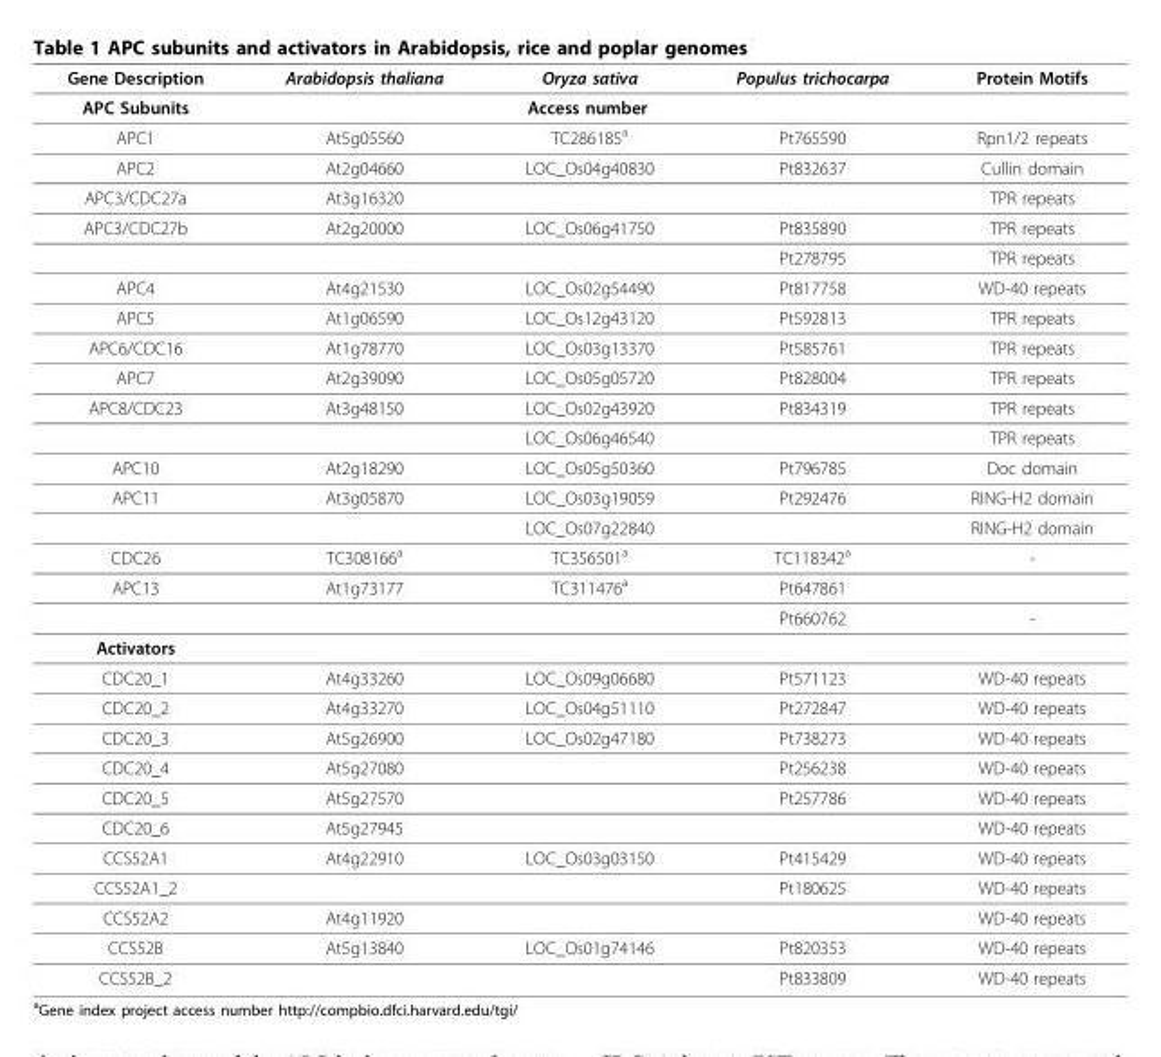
<table><thead><tr><td>Gene Description</td><td>Arabidopsis thaliana</td><td>Oryza sativa</td><td>Populus trichocarpa</td><td>Protein Motifs</td></tr></thead><tbody><tr><td>APC Subunits</td><td colspan="3">Access number</td><td></td></tr><tr><td>APC1</td><td>At5g05560</td><td>TC286185<sup>a</sup></td><td>Pt765590</td><td>Rpn1/2 repeats</td></tr><tr><td>APC2</td><td>At2g04660</td><td>LOC_Os04g40830</td><td>Pt832637</td><td>Cullin domain</td></tr><tr><td>APC3/CDC27a</td><td>At3g16320</td><td></td><td></td><td>TPR repeats</td></tr><tr><td rowspan="2">APC3/CDC27b</td><td>At2g20000</td><td>LOC_Os06g41750</td><td>Pt835890</td><td>TPR repeats</td></tr><tr><td></td><td></td><td>Pt278795</td><td>TPR repeats</td></tr><tr><td>APC4</td><td>At4g21530</td><td>LOC_Os02g54490</td><td>Pt817758</td><td>WD-40 repeats</td></tr><tr><td>APC5</td><td>At1g06590</td><td>LOC_Os12g43120</td><td>Pt592813</td><td>TPR repeats</td></tr><tr><td>APC6/CDC16</td><td>At1g78770</td><td>LOC_Os03g13370</td><td>Pt585761</td><td>TPR repeats</td></tr><tr><td>APC7</td><td>At2g39090</td><td>LOC_Os05g05720</td><td>Pt828004</td><td>TPR repeats</td></tr><tr><td rowspan="2">APC8/CDC23</td><td>At3g48150</td><td>LOC_Os02g43920</td><td>Pt834319</td><td>TPR repeats</td></tr><tr><td></td><td>LOC_Os06g46540</td><td></td><td>TPR repeats</td></tr><tr><td>APC10</td><td>At2g18290</td><td>LOC_Os05g50360</td><td>Pt796785</td><td>Doc domain</td></tr><tr><td rowspan="2">APC11</td><td>At3g05870</td><td>LOC_Os03g19059</td><td>Pt292476</td><td>RING-H2 domain</td></tr><tr><td></td><td>LOC_Os07g22840</td><td></td><td>RING-H2 domain</td></tr><tr><td>CDC26</td><td>TC308166<sup>a</sup></td><td>TC356501<sup>a</sup></td><td>TC118342<sup>a</sup></td><td>-</td></tr><tr><td rowspan="2">APC13</td><td>At1g73177</td><td>TC311476<sup>a</sup></td><td>Pt647861</td><td></td></tr><tr><td></td><td></td><td>Pt660762</td><td>-</td></tr><tr><td colspan="5">Activators</td></tr><tr><td>CDC20_1</td><td>At4g33260</td><td>LOC_Os09g06680</td><td>Pt571123</td><td>WD-40 repeats</td></tr><tr><td>CDC20_2</td><td>At4g33270</td><td>LOC_Os04g51110</td><td>Pt272847</td><td>WD-40 repeats</td></tr><tr><td>CDC20_3</td><td>At5g26900</td><td>LOC_Os02g47180</td><td>Pt738273</td><td>WD-40 repeats</td></tr><tr><td>CDC20_4</td><td>At5g27080</td><td></td><td>Pt256238</td><td>WD-40 repeats</td></tr><tr><td>CDC20_5</td><td>At5g27570</td><td></td><td>Pt257786</td><td>WD-40 repeats</td></tr><tr><td>CDC20_6</td><td>At5g27945</td><td></td><td></td><td>WD-40 repeats</td></tr><tr><td>CCS52A1</td><td>At4g22910</td><td>LOC_Os03g03150</td><td>Pt415429</td><td>WD-40 repeats</td></tr><tr><td>CCS52A1_2</td><td></td><td></td><td>Pt180625</td><td>WD-40 repeats</td></tr><tr><td>CCS52A2</td><td>At4g11920</td><td></td><td></td><td>WD-40 repeats</td></tr><tr><td>CCS52B</td><td>At5g13840</td><td>LOC_Os01g74146</td><td>Pt820353</td><td>WD-40 repeats</td></tr><tr><td>CCS52B_2</td><td></td><td></td><td>Pt833809</td><td>WD-40 repeats</td></tr></tbody></table>